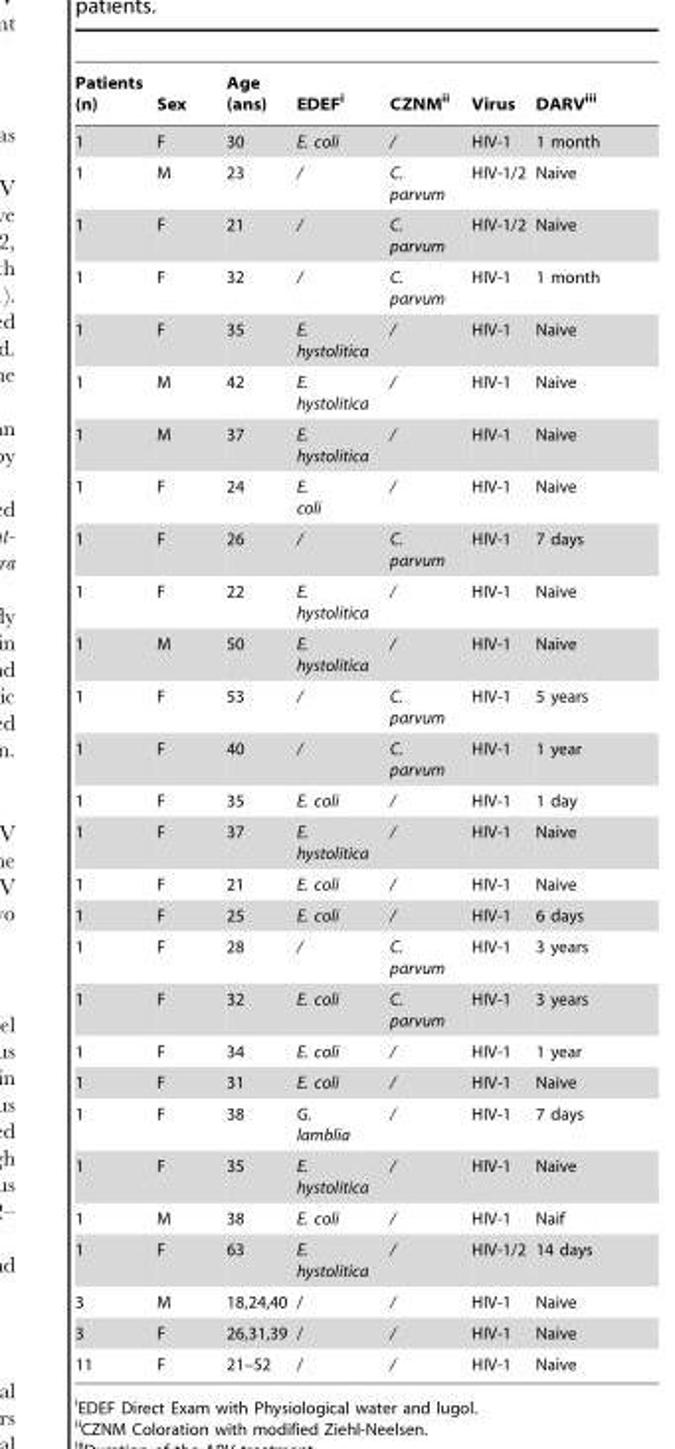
<table><thead><tr><td>Patients (n)</td><td>Sex</td><td>Age (ans)</td><td>EDEF<sup>i</sup></td><td>CZNM<sup>ii</sup></td><td>Virus</td><td>DARViii</td></tr></thead><tbody><tr><td>1</td><td>F</td><td>30</td><td>E. coli</td><td>/</td><td>HIV-1</td><td>1 month</td></tr><tr><td>1</td><td>M</td><td>23</td><td>/</td><td>C. parvum</td><td>HIV-1/2</td><td>Naive</td></tr><tr><td>1</td><td>F</td><td>21</td><td>/</td><td>C. parvum</td><td>HIV-1/2</td><td>Naive</td></tr><tr><td>1</td><td>F</td><td>32</td><td>/</td><td>C. parvum</td><td>HIV-1</td><td>1 month</td></tr><tr><td>1</td><td>F</td><td>35</td><td>E. hystolitica</td><td>/</td><td>HIV-1</td><td>Naive</td></tr><tr><td>1</td><td>M</td><td>42</td><td>E. hystolitica</td><td>/</td><td>HIV-1</td><td>Naive</td></tr><tr><td>1</td><td>M</td><td>37</td><td>E. hystolitica</td><td>/</td><td>HIV-1</td><td>Naive</td></tr><tr><td>1</td><td>F</td><td>24</td><td>E. coli</td><td>/</td><td>HIV-1</td><td>Naive</td></tr><tr><td>1</td><td>F</td><td>26</td><td>/</td><td>C. parvum</td><td>HIV-1</td><td>7 days</td></tr><tr><td>1</td><td>F</td><td>22</td><td>E. hystolitica</td><td>/</td><td>HIV-1</td><td>Naive</td></tr><tr><td>1</td><td>M</td><td>50</td><td>E. hystolitica</td><td>/</td><td>HIV-1</td><td>Naive</td></tr><tr><td>1</td><td>F</td><td>53</td><td>/</td><td>C. parvum</td><td>HIV-1</td><td>5 years</td></tr><tr><td>1</td><td>F</td><td>40</td><td>/</td><td>C. parvum</td><td>HIV-1</td><td>1 year</td></tr><tr><td>1</td><td>F</td><td>35</td><td>E. coli</td><td>/</td><td>HIV-1</td><td>1 day</td></tr><tr><td>1</td><td>F</td><td>37</td><td>E. hystolitica</td><td>/</td><td>HIV-1</td><td>Naive</td></tr><tr><td>1</td><td>F</td><td>21</td><td>E. coli</td><td>/</td><td>HIV-1</td><td>Naive</td></tr><tr><td>1</td><td>F</td><td>25</td><td>E. coli</td><td>/</td><td>HIV-1</td><td>6 days</td></tr><tr><td>1</td><td>F</td><td>28</td><td>/</td><td>C. parvum</td><td>HIV-1</td><td>3 years</td></tr><tr><td>1</td><td>F</td><td>32</td><td>E. coli</td><td>C. parvum</td><td>HIV-1</td><td>3 years</td></tr><tr><td>1</td><td>F</td><td>34</td><td>E. coli</td><td>/</td><td>HIV-1</td><td>1 year</td></tr><tr><td>1</td><td>F</td><td>31</td><td>E. coli</td><td>/</td><td>HIV-1</td><td>Naive</td></tr><tr><td>1</td><td>F</td><td>38</td><td>G. lamblia</td><td>/</td><td>HIV-1</td><td>7 days</td></tr><tr><td>1</td><td>F</td><td>35</td><td>E. hystolitica</td><td>/</td><td>HIV-1</td><td>Naive</td></tr><tr><td>1</td><td>M</td><td>38</td><td>E. coli</td><td>/</td><td>HIV-1</td><td>Naif</td></tr><tr><td>1</td><td>F</td><td>63</td><td>E. hystolitica</td><td>/</td><td>HIV-1/2</td><td>14 days</td></tr><tr><td>3</td><td>M</td><td>18,24,40</td><td>/</td><td>/</td><td>HIV-1</td><td>Naive</td></tr><tr><td>3</td><td>F</td><td>26,31,39</td><td>/</td><td>/</td><td>HIV-1</td><td>Naive</td></tr><tr><td>11</td><td>F</td><td>21–52</td><td>/</td><td>/</td><td>HIV-1</td><td>Naive</td></tr></tbody></table>